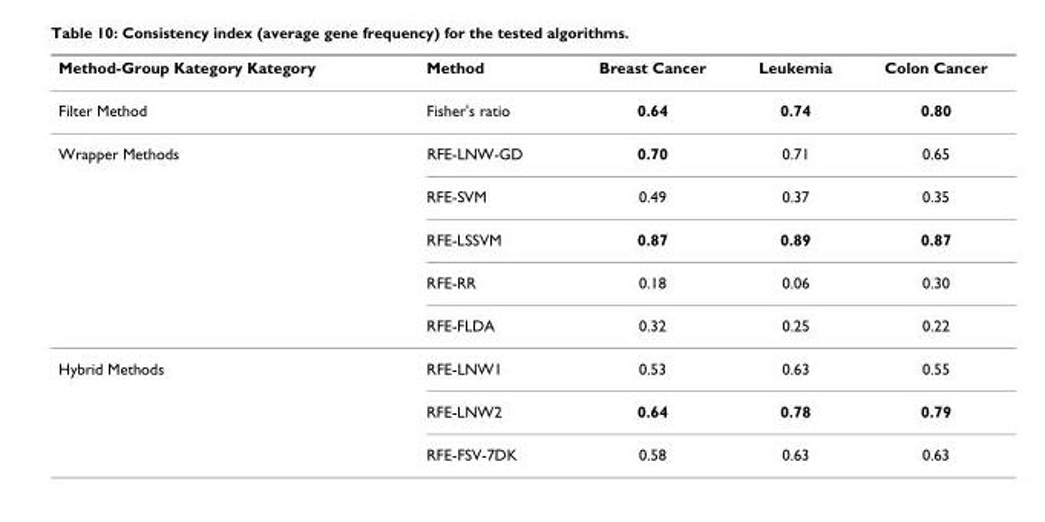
<table><thead><tr><td>Method-Group Kategory Kategory</td><td>Method</td><td>Breast Cancer</td><td>Leukemia</td><td>Colon Cancer</td></tr></thead><tbody><tr><td>Filter Method</td><td>Fisher&#x27;s ratio</td><td>0.64</td><td>0.74</td><td>0.80</td></tr><tr><td rowspan="5">Wrapper Methods</td><td>RFE-LNW-GD</td><td>0.70</td><td>0.71</td><td>0.65</td></tr><tr><td>RFE-SVM</td><td>0.49</td><td>0.37</td><td>0.35</td></tr><tr><td>RFE-LSSVM</td><td>0.87</td><td>0.89</td><td>0.87</td></tr><tr><td>RFE-RR</td><td>0.18</td><td>0.06</td><td>0.30</td></tr><tr><td>RFE-FLDA</td><td>0.32</td><td>0.25</td><td>0.22</td></tr><tr><td rowspan="3">Hybrid Methods</td><td>RFE-LNW1</td><td>0.53</td><td>0.63</td><td>0.55</td></tr><tr><td>RFE-LNW2</td><td>0.64</td><td>0.78</td><td>0.79</td></tr><tr><td>RFE-FSV-7DK</td><td>0.58</td><td>0.63</td><td>0.63</td></tr></tbody></table>